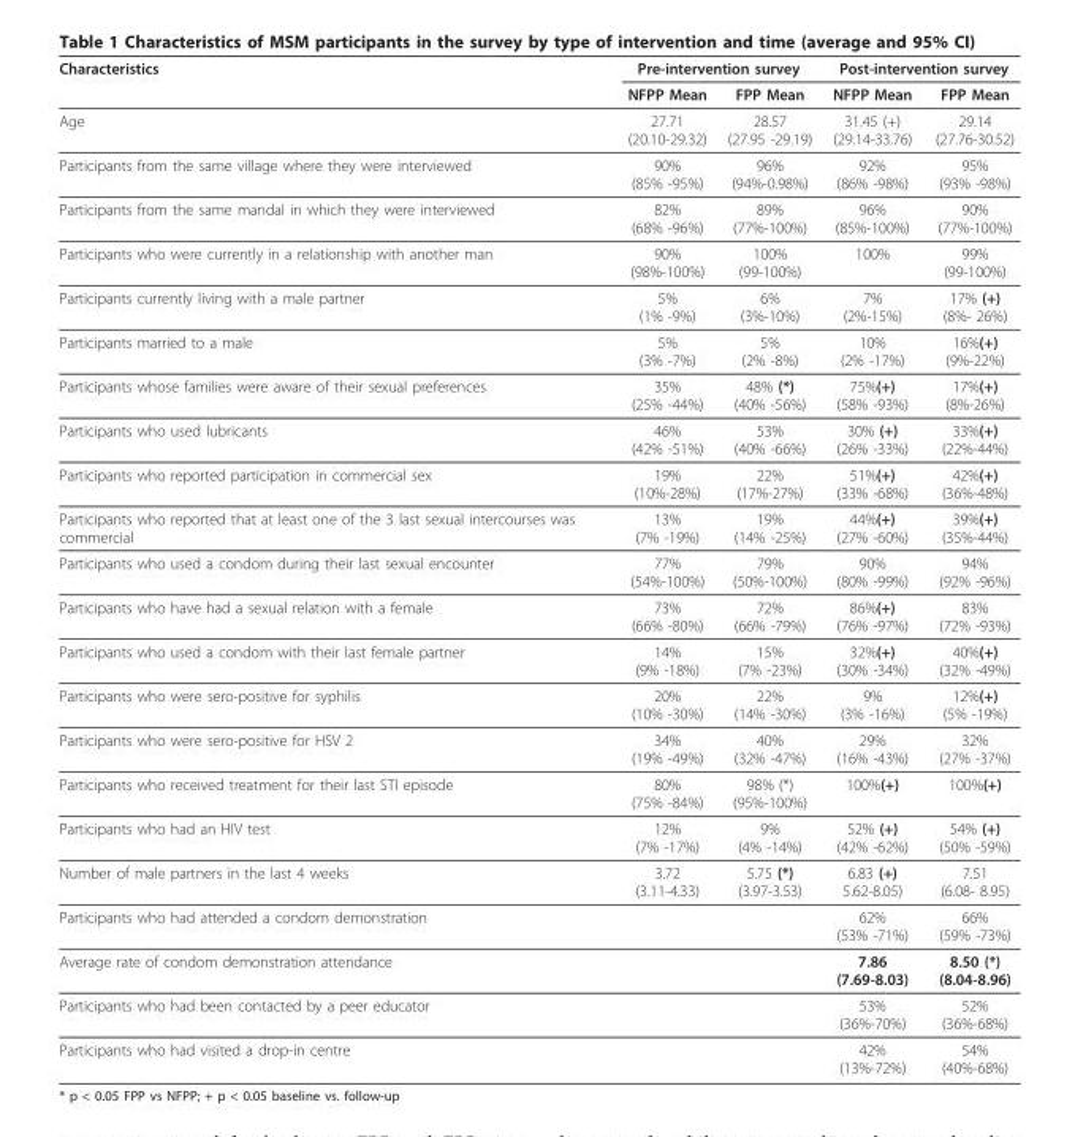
<table><thead><tr><td rowspan="2">Characteristics</td><td colspan="2">Pre-intervention survey</td><td colspan="2">Post-intervention survey</td></tr><tr><td>NFPP Mean</td><td>FPP Mean</td><td>NFPP Mean</td><td>FPP Mean</td></tr></thead><tbody><tr><td>Age</td><td>27.71 (20.10-29.32)</td><td>28.57 (27.95 -29.19)</td><td>31.45 (+) (29.14-33.76)</td><td>29.14 (27.76-30.52)</td></tr><tr><td>Participants from the same village where they were interviewed</td><td>90% (85% -95%)</td><td>96% (94%-0.98%)</td><td>92% (86% -98%)</td><td>95% (93% -98%)</td></tr><tr><td>Participants from the same mandal in which they were interviewed</td><td>82% (68% -96%)</td><td>89% (77%-100%)</td><td>96% (85%-100%)</td><td>90% (77%-100%)</td></tr><tr><td>Participants who were currently in a relationship with another man</td><td>90% (98%-100%)</td><td>100% (99-100%)</td><td>100%</td><td>99% (99-100%)</td></tr><tr><td>Participants currently living with a male partner</td><td>5% (1% -9%)</td><td>6% (3%-10%)</td><td>7% (2%-15%)</td><td>17% (+) (8%- 26%)</td></tr><tr><td>Participants married to a male</td><td>5% (3% -7%)</td><td>5% (2% -8%)</td><td>10% (2% -17%)</td><td>16%(+) (9%-22%)</td></tr><tr><td>Participants whose families were aware of their sexual preferences</td><td>35% (25% -44%)</td><td>48% (*) (40% -56%)</td><td>75%(+) (58% -93%)</td><td>17%(+) (8%-26%)</td></tr><tr><td>Participants who used lubricants</td><td>46% (42% -51%)</td><td>53% (40% -66%)</td><td>30% (+) (26% -33%)</td><td>33%(+) (22%-44%)</td></tr><tr><td>Participants who reported participation in commercial sex</td><td>19% (10%-28%)</td><td>22% (17%-27%)</td><td>51%(+) (33% -68%)</td><td>42%(+) (36%-48%)</td></tr><tr><td>Participants who reported that at least one of the 3 last sexual intercourses was commercial</td><td>13% (7% -19%)</td><td>19% (14% -25%)</td><td>44%(+) (27% -60%)</td><td>39%(+) (35%-44%)</td></tr><tr><td>Participants who used a condom during their last sexual encounter</td><td>77% (54%-100%)</td><td>79% (50%-100%)</td><td>90% (80% -99%)</td><td>94% (92% -96%)</td></tr><tr><td>Participants who have had a sexual relation with a female</td><td>73% (66% -80%)</td><td>72% (66% -79%)</td><td>86%(+) (76% -97%)</td><td>83% (72% -93%)</td></tr><tr><td>Participants who used a condom with their last female partner</td><td>14% (9% -18%)</td><td>15% (7% -23%)</td><td>32%(+) (30% -34%)</td><td>40%(+) (32% -49%)</td></tr><tr><td>Participants who were sero-positive for syphilis</td><td>20% (10% -30%)</td><td>22% (14% -30%)</td><td>9% (3% -16%)</td><td>12%(+) (5% -19%)</td></tr><tr><td>Participants who were sero-positive for HSV 2</td><td>34% (19% -49%)</td><td>40% (32% -47%)</td><td>29% (16% -43%)</td><td>32% (27% -37%)</td></tr><tr><td>Participants who received treatment for their last STI episode</td><td>80% (75% -84%)</td><td>98% (*) (95%-100%)</td><td>100%(+)</td><td>100%(+)</td></tr><tr><td>Participants who had an HIV test</td><td>12% (7% -17%)</td><td>9% (4% -14%)</td><td>52% (+) (42% -62%)</td><td>54% (+) (50% -59%)</td></tr><tr><td>Number of male partners in the last 4 weeks</td><td>3.72 (3.11-4.33)</td><td>5.75 (*) (3.97-3.53)</td><td>6.83 (+) 5.62-8.05)</td><td>7.51 (6.08- 8.95)</td></tr><tr><td>Participants who had attended a condom demonstration</td><td></td><td></td><td>62% (53% -71%)</td><td>66% (59% -73%)</td></tr><tr><td>Average rate of condom demonstration attendance</td><td></td><td></td><td>7.86 (7.69-8.03)</td><td>8.50 (*) (8.04-8.96)</td></tr><tr><td>Participants who had been contacted by a peer educator</td><td></td><td></td><td>53% (36%-70%)</td><td>52% (36%-68%)</td></tr><tr><td>Participants who had visited a drop-in centre</td><td></td><td></td><td>42% (13%-72%)</td><td>54% (40%-68%)</td></tr></tbody></table>